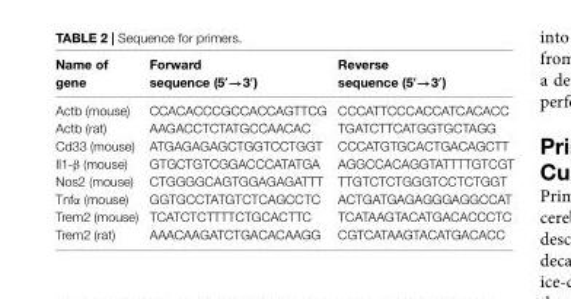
<table><thead><tr><td>Name of gene</td><td>Forward sequence (5′→3′)</td><td>Reverse sequence (5′→3′)</td></tr></thead><tbody><tr><td>Actb (mouse)</td><td>CCACACCCGCCACCAGTTCG</td><td>CCCATTCCCACCATCACACC</td></tr><tr><td>Actb (rat)</td><td>AAGACCTCTATGCCAACAC</td><td>TGATCTTCATGGTGCTAGG</td></tr><tr><td>Cd33 (mouse)</td><td>ATGAGAGAGCTGGTCCTGGT</td><td>CCCATGTGCACTGACAGCTT</td></tr><tr><td>Il1-β (mouse)</td><td>GTGCTGTCGGACCCATATGA</td><td>AGGCCACAGGTATTTTGTCGT</td></tr><tr><td>Nos2 (mouse)</td><td>CTGGGGCAGTGGAGAGATTT</td><td>TTGTCTCTGGGTCCTCTGGT</td></tr><tr><td>Tnfα (mouse)</td><td>GGTGCCTATGTCTCAGCCTC</td><td>ACTGATGAGAGGGAGGCCAT</td></tr><tr><td>Trem2 (mouse)</td><td>TCATCTCTTTTCTGCACTTC</td><td>TCATAAGTACATGACACCCTC</td></tr><tr><td>Trem2 (rat)</td><td>AAACAAGATCTGACACAAGG</td><td>CGTCATAAGTACATGACACC</td></tr></tbody></table>